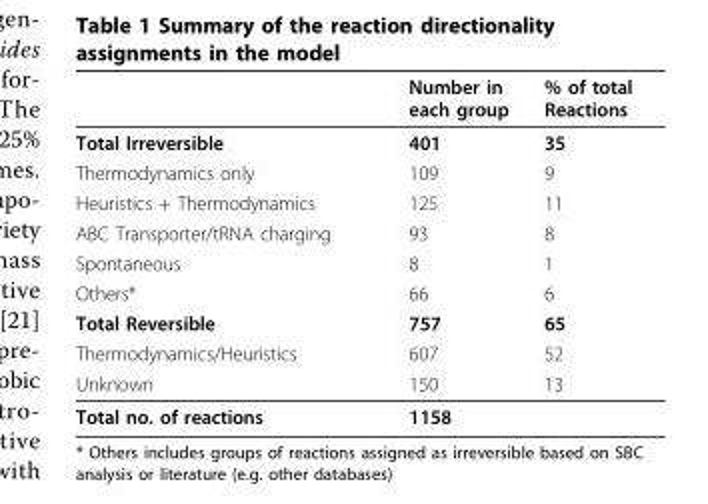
<table><thead><tr><td></td><td>Number in each group</td><td>% of total Reactions</td></tr></thead><tbody><tr><td>Total Irreversible</td><td>401</td><td>35</td></tr><tr><td>Thermodynamics only</td><td>109</td><td>9</td></tr><tr><td>Heuristics + Thermodynamics</td><td>125</td><td>11</td></tr><tr><td>ABC Transporter/tRNA charging</td><td>93</td><td>8</td></tr><tr><td>Spontaneous</td><td>8</td><td>1</td></tr><tr><td>Others*</td><td>66</td><td>6</td></tr><tr><td>Total Reversible</td><td>757</td><td>65</td></tr><tr><td>Thermodynamics/Heuristics</td><td>607</td><td>52</td></tr><tr><td>Unknown</td><td>150</td><td>13</td></tr><tr><td>Total no. of reactions</td><td>1158</td><td></td></tr></tbody></table>